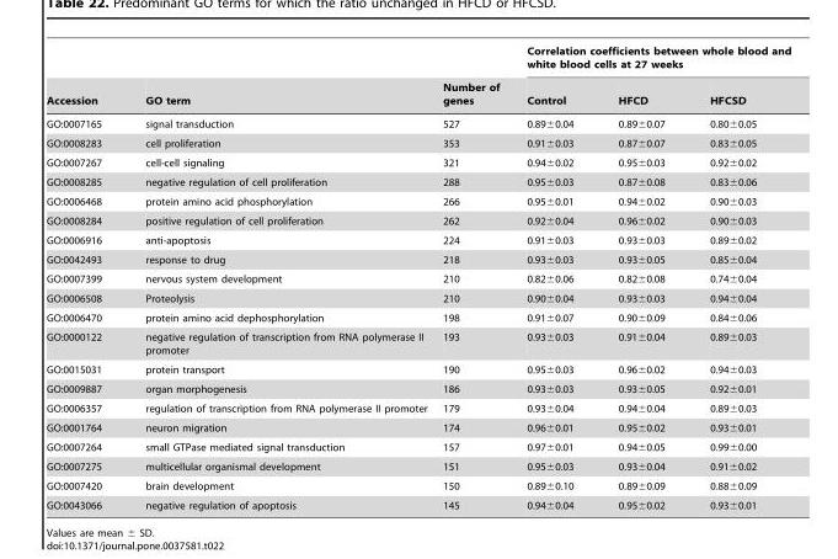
<table><thead><tr><td rowspan="2">Accession</td><td rowspan="2">GO term</td><td rowspan="2">Number of genes</td><td colspan="3">Correlation coefficients between whole blood and white blood cells at 27 weeks</td></tr><tr><td>Control</td><td>HFCD</td><td>HFCSD</td></tr></thead><tbody><tr><td>GO:0007165</td><td>signal transduction</td><td>527</td><td>0.89±0.04</td><td>0.89±0.07</td><td>0.80±0.05</td></tr><tr><td>GO:0008283</td><td>cell proliferation</td><td>353</td><td>0.91±0.03</td><td>0.87±0.07</td><td>0.83±0.05</td></tr><tr><td>GO:0007267</td><td>cell-cell signaling</td><td>321</td><td>0.94±0.02</td><td>0.95±0.03</td><td>0.92±0.02</td></tr><tr><td>GO:0008285</td><td>negative regulation of cell proliferation</td><td>288</td><td>0.95±0.03</td><td>0.87±0.08</td><td>0.83±0.06</td></tr><tr><td>GO:0006468</td><td>protein amino acid phosphorylation</td><td>266</td><td>0.95±0.01</td><td>0.94±0.02</td><td>0.90±0.03</td></tr><tr><td>GO:0008284</td><td>positive regulation of cell proliferation</td><td>262</td><td>0.92±0.04</td><td>0.96±0.02</td><td>0.90±0.03</td></tr><tr><td>GO:0006916</td><td>anti-apoptosis</td><td>224</td><td>0.91±0.03</td><td>0.93±0.03</td><td>0.89±0.02</td></tr><tr><td>GO:0042493</td><td>response to drug</td><td>218</td><td>0.93±0.03</td><td>0.93±0.05</td><td>0.85±0.04</td></tr><tr><td>GO:0007399</td><td>nervous system development</td><td>210</td><td>0.82±0.06</td><td>0.82±0.08</td><td>0.74±0.04</td></tr><tr><td>GO:0006508</td><td>Proteolysis</td><td>210</td><td>0.90±0.04</td><td>0.93±0.03</td><td>0.94±0.04</td></tr><tr><td>GO:0006470</td><td>protein amino acid dephosphorylation</td><td>198</td><td>0.91±0.07</td><td>0.90±0.09</td><td>0.84±0.06</td></tr><tr><td>GO:0000122</td><td>negative regulation of transcription from RNA polymerase II promoter</td><td>193</td><td>0.93±0.03</td><td>0.91±0.04</td><td>0.89±0.03</td></tr><tr><td>GO:0015031</td><td>protein transport</td><td>190</td><td>0.95±0.03</td><td>0.96±0.02</td><td>0.94±0.03</td></tr><tr><td>GO:0009887</td><td>organ morphogenesis</td><td>186</td><td>0.93±0.03</td><td>0.93±0.05</td><td>0.92±0.01</td></tr><tr><td>GO:0006357</td><td>regulation of transcription from RNA polymerase II promoter</td><td>179</td><td>0.93±0.04</td><td>0.94±0.04</td><td>0.89±0.03</td></tr><tr><td>GO:0001764</td><td>neuron migration</td><td>174</td><td>0.96±0.01</td><td>0.95±0.02</td><td>0.93±0.01</td></tr><tr><td>GO:0007264</td><td>small GTPase mediated signal transduction</td><td>157</td><td>0.97±0.01</td><td>0.94±0.05</td><td>0.99±0.00</td></tr><tr><td>GO:0007275</td><td>multicellular organismal development</td><td>151</td><td>0.95±0.03</td><td>0.93±0.04</td><td>0.91±0.02</td></tr><tr><td>GO:0007420</td><td>brain development</td><td>150</td><td>0.89±0.10</td><td>0.89±0.09</td><td>0.88±0.09</td></tr><tr><td>GO:0043066</td><td>negative regulation of apoptosis</td><td>145</td><td>0.94±0.04</td><td>0.95±0.02</td><td>0.93±0.01</td></tr></tbody></table>